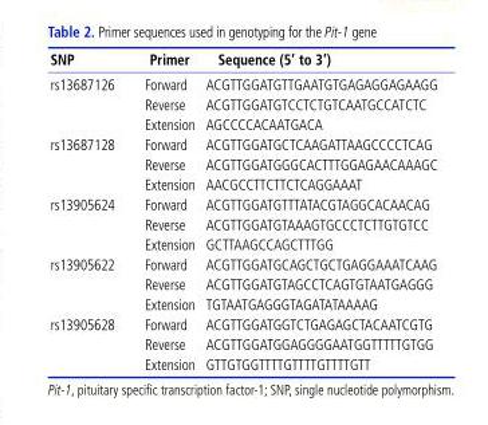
<table><thead><tr><td>SNP</td><td>Primer</td><td>Sequence (5’ to 3’)</td></tr></thead><tbody><tr><td rowspan="3">rs13687126</td><td>Forward</td><td>ACGTTGGATGTTGAATGTGAGAGGAGAAGG</td></tr><tr><td>Reverse</td><td>ACGTTGGATGTCCTCTGTCAATGCCATCTC</td></tr><tr><td>Extension</td><td>AGCCCCACAATGACA</td></tr><tr><td rowspan="3">rs13687128</td><td>Forward</td><td>ACGTTGGATGCTCAAGATTAAGCCCCTCAG</td></tr><tr><td>Reverse</td><td>ACGTTGGATGGGCACTTTGGAGAACAAAGC</td></tr><tr><td>Extension</td><td>AACGCCTTCTTCTCAGGAAAT</td></tr><tr><td rowspan="3">rs13905624</td><td>Forward</td><td>ACGTTGGATGTTTATACGTAGGCACAACAG</td></tr><tr><td>Reverse</td><td>ACGTTGGATGTAAAGTGCCCTCTTGTGTCC</td></tr><tr><td>Extension</td><td>GCTTAAGCCAGCTTTGG</td></tr><tr><td rowspan="3">rs13905622</td><td>Forward</td><td>ACGTTGGATGCAGCTGCTGAGGAAATCAAG</td></tr><tr><td>Reverse</td><td>ACGTTGGATGTAGCCTCAGTGTAATGAGGG</td></tr><tr><td>Extension</td><td>TGTAATGAGGGTAGATATAAAAG</td></tr><tr><td rowspan="3">rs13905628</td><td>Forward</td><td>ACGTTGGATGGTCTGAGAGCTACAATCGTG</td></tr><tr><td>Reverse</td><td>ACGTTGGATGGAGGGGAATGGTTTTTGTGG</td></tr><tr><td>Extension</td><td>GTTGTGGTTTTGTTTTGTTTTGTT</td></tr></tbody></table>